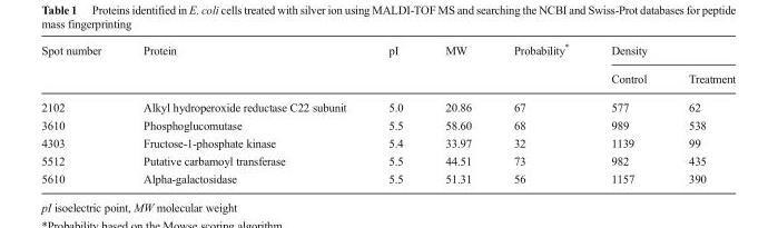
<table><thead><tr><td rowspan="2">Spot number</td><td rowspan="2">Protein</td><td rowspan="2">pI</td><td rowspan="2">MW</td><td rowspan="2">Probability*</td><td colspan="2">Density</td></tr><tr><td>Control</td><td>Treatment</td></tr></thead><tbody><tr><td>2102</td><td>Alkyl hydroperoxide reductase C22 subunit</td><td>5.0</td><td>20.86</td><td>67</td><td>577</td><td>62</td></tr><tr><td>3610</td><td>Phosphoglucomutase</td><td>5.5</td><td>58.60</td><td>68</td><td>989</td><td>538</td></tr><tr><td>4303</td><td>Fructose-1-phosphate kinase</td><td>5.4</td><td>33.97</td><td>32</td><td>1139</td><td>99</td></tr><tr><td>5512</td><td>Putative carbamoyl transferase</td><td>5.5</td><td>44.51</td><td>73</td><td>982</td><td>435</td></tr><tr><td>5610</td><td>Alpha-galactosidase</td><td>5.5</td><td>51.31</td><td>56</td><td>1157</td><td>390</td></tr></tbody></table>